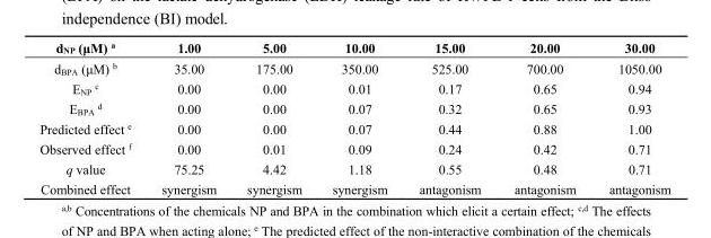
<table><thead><tr><td>d<sub>NP</sub> (μM) <sup>a</sup></td><td>1.00</td><td>5.00</td><td>10.00</td><td>15.00</td><td>20.00</td><td>30.00</td></tr></thead><tbody><tr><td>d<sub>BPA</sub> (μM) <sup>b</sup></td><td>35.00</td><td>175.00</td><td>350.00</td><td>525.00</td><td>700.00</td><td>1050.00</td></tr><tr><td>E<sub>NP</sub> <sup>c</sup></td><td>0.00</td><td>0.00</td><td>0.01</td><td>0.17</td><td>0.65</td><td>0.94</td></tr><tr><td>E<sub>BPA</sub> <sup>d</sup></td><td>0.00</td><td>0.00</td><td>0.07</td><td>0.32</td><td>0.65</td><td>0.93</td></tr><tr><td>Predicted effect <sup>e</sup></td><td>0.00</td><td>0.00</td><td>0.07</td><td>0.44</td><td>0.88</td><td>1.00</td></tr><tr><td>Observed effect <sup>f</sup></td><td>0.00</td><td>0.01</td><td>0.09</td><td>0.24</td><td>0.42</td><td>0.71</td></tr><tr><td>q value</td><td>75.25</td><td>4.42</td><td>1.18</td><td>0.55</td><td>0.48</td><td>0.71</td></tr><tr><td>Combined effect</td><td>synergism</td><td>synergism</td><td>synergism</td><td>antagonism</td><td>antagonism</td><td>antagonism</td></tr></tbody></table>